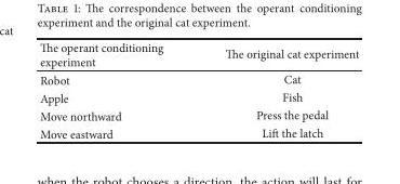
<table><thead><tr><td>The operant conditioning experiment</td><td>The original cat experiment</td></tr></thead><tbody><tr><td>Robot</td><td>Cat</td></tr><tr><td>Apple</td><td>Fish</td></tr><tr><td>Move northward</td><td>Press the pedal</td></tr><tr><td>Move eastward</td><td>Lift the latch</td></tr></tbody></table>